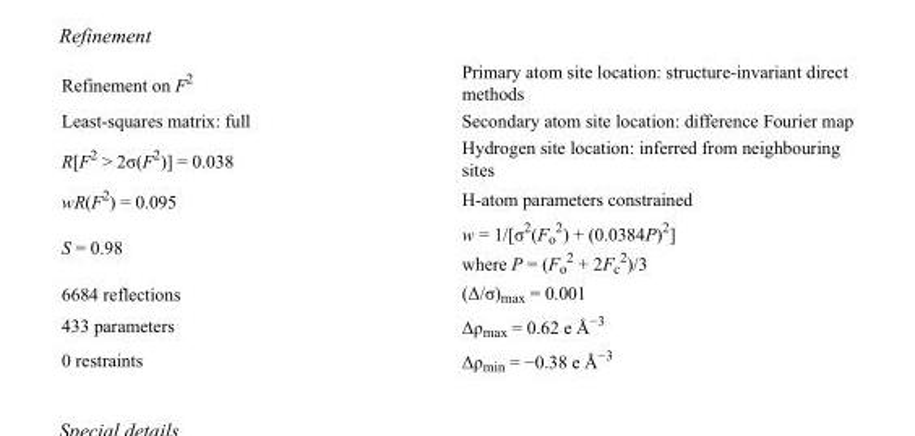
<table><tbody><tr><td>Refinement on F<sup>2</sup></td><td>Primary atom site location: structure-invariant direct methods</td></tr><tr><td>Least-squares matrix: full</td><td>Secondary atom site location: difference Fourier map</td></tr><tr><td>R[F<sup>2</sup> &gt; 2σ(F<sup>2</sup>)] = 0.038</td><td>Hydrogen site location: inferred from neighbouring sites</td></tr><tr><td>wR(F<sup>2</sup>) = 0.095</td><td>H-atom parameters constrained</td></tr><tr><td>S = 0.98</td><td>w = 1/[σ<sup>2</sup>(F<sub>o</sub> <sup>2</sup>) + (0.0384P)<sup>2</sup>] where P = (F<sub>o</sub> <sup>2</sup> + 2F<sub>c</sub> <sup>2</sup>)/3</td></tr><tr><td>6684 reflections</td><td>(Δ/σ)<sub>max</sub> = 0.001</td></tr><tr><td>433 parameters</td><td>Δρ<sub>max</sub> = 0.62 e Å<sup>−3</sup></td></tr><tr><td>0 restraints</td><td>Δρ<sub>min</sub> = −0.38 e Å<sup>−3</sup></td></tr></tbody></table>